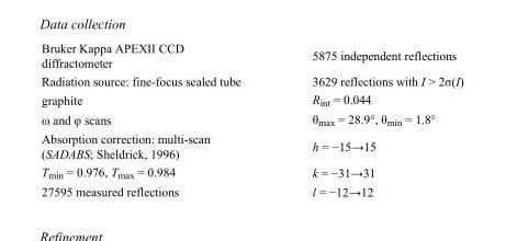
<table><tbody><tr><td>Bruker Kappa APEXII CCD diffractometer</td><td>5875 independent reflections</td></tr><tr><td>Radiation source: fine-focus sealed tube</td><td>3629 reflections with I &gt; 2σ(I)</td></tr><tr><td>graphite</td><td>R<sub>int</sub> = 0.044</td></tr><tr><td>ω and φ scans</td><td>θ<sub>max</sub> = 28.9°, θ<sub>min</sub> = 1.8°</td></tr><tr><td>Absorption correction: multi-scan (SADABS; Sheldrick, 1996)</td><td>h = −15→15</td></tr><tr><td>T<sub>min</sub> = 0.976, T<sub>max</sub> = 0.984</td><td>k = −31→31</td></tr><tr><td>27595 measured reflections</td><td>l = −12→12</td></tr></tbody></table>